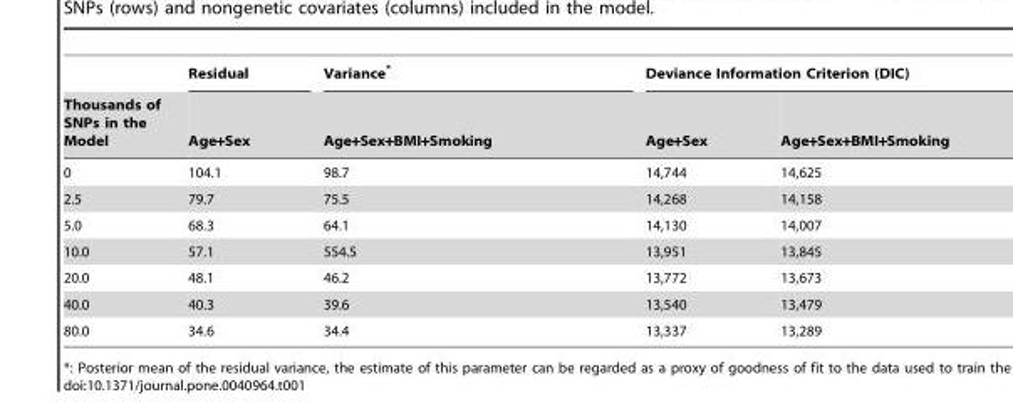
<table><thead><tr><td rowspan="2">Thousands of SNPs in the Model</td><td rowspan="2">Residual Age+Sex</td><td rowspan="2">Variance* Age+Sex+BMI+Smoking</td><td colspan="2">Deviance Information Criterion (DIC)</td></tr><tr><td>Age+Sex</td><td>Age+Sex+BMI+Smoking</td></tr></thead><tbody><tr><td>0</td><td>104.1</td><td>98.7</td><td>14,744</td><td>14,625</td></tr><tr><td>2.5</td><td>79.7</td><td>75.5</td><td>14,268</td><td>14,158</td></tr><tr><td>5.0</td><td>68.3</td><td>64.1</td><td>14,130</td><td>14,007</td></tr><tr><td>10.0</td><td>57.1</td><td>554.5</td><td>13,951</td><td>13,845</td></tr><tr><td>20.0</td><td>48.1</td><td>46.2</td><td>13,772</td><td>13,673</td></tr><tr><td>40.0</td><td>40.3</td><td>39.6</td><td>13,540</td><td>13,479</td></tr><tr><td>80.0</td><td>34.6</td><td>34.4</td><td>13,337</td><td>13,289</td></tr></tbody></table>